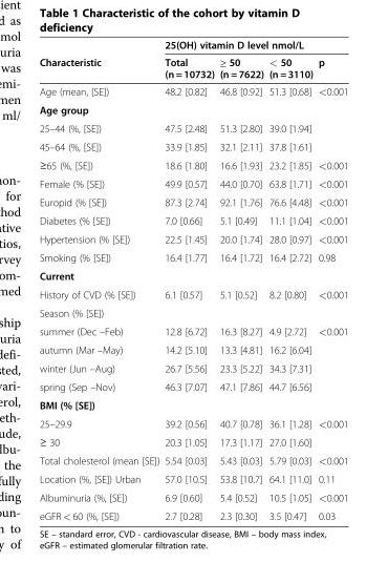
<table><thead><tr><td rowspan="2">Characteristic</td><td colspan="4">25(OH) vitamin D level nmol/L</td></tr><tr><td>Total (n = 10732)</td><td>≥ 50 (n = 7622)</td><td>&lt; 50 (n = 3110)</td><td>p</td></tr></thead><tbody><tr><td>Age (mean, [SE])</td><td>48.2 [0.82]</td><td>46.8 [0.92]</td><td>51.3 [0.68]</td><td>&lt;0.001</td></tr><tr><td colspan="5">Age group</td></tr><tr><td>25–44 (%, [SE])</td><td>47.5 [2.48]</td><td>51.3 [2.80]</td><td>39.0 [1.94]</td><td></td></tr><tr><td>45–64 (%, [SE])</td><td>33.9 [1.85]</td><td>32.1 [2.11]</td><td>37.8 [1.61]</td><td></td></tr><tr><td>≥65 (%, [SE])</td><td>18.6 [1.80]</td><td>16.6 [1.93]</td><td>23.2 [1.85]</td><td>&lt;0.001</td></tr><tr><td>Female (% [SE])</td><td>49.9 [0.57]</td><td>44.0 [0.70]</td><td>63.8 [1.71]</td><td>&lt;0.001</td></tr><tr><td>Europid (% [SE])</td><td>87.3 [2.74]</td><td>92.1 [1.76]</td><td>76.6 [4.48]</td><td>&lt;0.001</td></tr><tr><td>Diabetes (% [SE])</td><td>7.0 [0.66]</td><td>5.1 [0.49]</td><td>11.1 [1.04]</td><td>&lt;0.001</td></tr><tr><td>Hypertension (% [SE])</td><td>22.5 [1.45]</td><td>20.0 [1.74]</td><td>28.0 [0.97]</td><td>&lt;0.001</td></tr><tr><td>Smoking (% [SE])</td><td>16.4 [1.77]</td><td>16.4 [1.72]</td><td>16.4 [2.72]</td><td>0.98</td></tr><tr><td colspan="5">Current</td></tr><tr><td>History of CVD (% [SE])</td><td>6.1 [0.57]</td><td>5.1 [0.52]</td><td>8.2 [0.80]</td><td>&lt;0.001</td></tr><tr><td colspan="5">Season (% [SE])</td></tr><tr><td>summer (Dec –Feb)</td><td>12.8 [6.72]</td><td>16.3 [8.27]</td><td>4.9 [2.72]</td><td>&lt;0.001</td></tr><tr><td>autumn (Mar –May)</td><td>14.2 [5.10]</td><td>13.3 [4.81]</td><td>16.2 [6.04]</td><td></td></tr><tr><td>winter (Jun –Aug)</td><td>26.7 [5.56]</td><td>23.3 [5.22]</td><td>34.3 [7.31]</td><td></td></tr><tr><td>spring (Sep –Nov)</td><td>46.3 [7.07]</td><td>47.1 [7.86]</td><td>44.7 [6.56]</td><td></td></tr><tr><td colspan="5">BMI (% [SE])</td></tr><tr><td>25–29.9</td><td>39.2 [0.56]</td><td>40.7 [0.78]</td><td>36.1 [1.28]</td><td>&lt;0.001</td></tr><tr><td>≥ 30</td><td>20.3 [1.05]</td><td>17.3 [1.17]</td><td>27.0 [1.60]</td><td></td></tr><tr><td>Total cholesterol (mean [SE])</td><td>5.54 [0.03]</td><td>5.43 [0.03]</td><td>5.79 [0.03]</td><td>&lt;0.001</td></tr><tr><td>Location (%, [SE]) Urban</td><td>57.0 [10.5]</td><td>53.8 [10.7]</td><td>64.1 [11.0]</td><td>0.11</td></tr><tr><td>Albuminuria (%, [SE])</td><td>6.9 [0.60]</td><td>5.4 [0.52]</td><td>10.5 [1.05]</td><td>&lt;0.001</td></tr><tr><td>eGFR &lt; 60 (%, [SE])</td><td>2.7 [0.28]</td><td>2.3 [0.30]</td><td>3.5 [0.47]</td><td>0.03</td></tr></tbody></table>